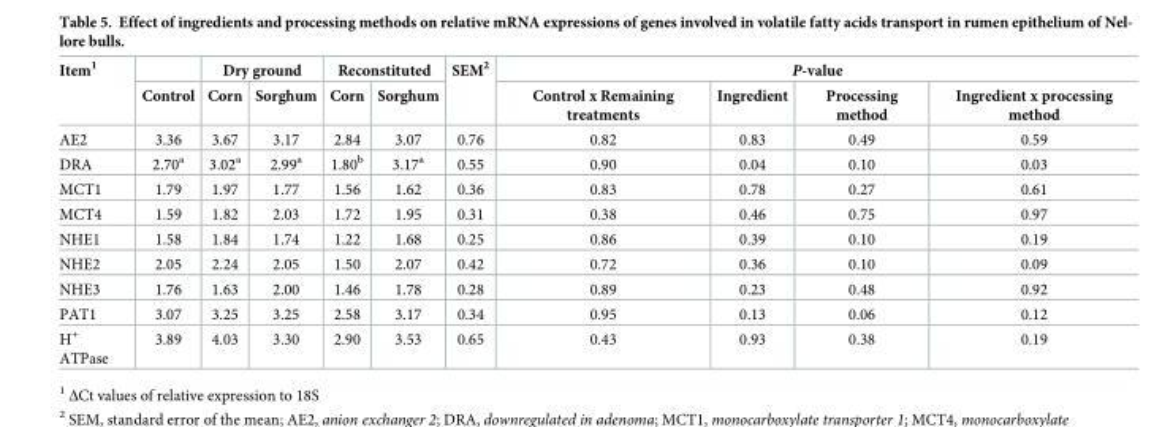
<table><thead><tr><td rowspan="2">Item<sup>1</sup></td><td rowspan="2">Control</td><td colspan="2">Dry ground</td><td colspan="2">Reconstituted</td><td rowspan="2">SEM<sup>2</sup></td><td colspan="4">P-value</td></tr><tr><td>Corn</td><td>Sorghum</td><td>Corn</td><td>Sorghum</td><td>Control x Remaining treatments</td><td>Ingredient</td><td>Processing method</td><td>Ingredient x processing method</td></tr></thead><tbody><tr><td>AE2</td><td>3.36</td><td>3.67</td><td>3.17</td><td>2.84</td><td>3.07</td><td>0.76</td><td>0.82</td><td>0.83</td><td>0.49</td><td>0.59</td></tr><tr><td>DRA</td><td>2.70<sup>a</sup></td><td>3.02<sup>a</sup></td><td>2.99<sup>a</sup></td><td>1.80<sup>b</sup></td><td>3.17<sup>a</sup></td><td>0.55</td><td>0.90</td><td>0.04</td><td>0.10</td><td>0.03</td></tr><tr><td>MCT1</td><td>1.79</td><td>1.97</td><td>1.77</td><td>1.56</td><td>1.62</td><td>0.36</td><td>0.83</td><td>0.78</td><td>0.27</td><td>0.61</td></tr><tr><td>MCT4</td><td>1.59</td><td>1.82</td><td>2.03</td><td>1.72</td><td>1.95</td><td>0.31</td><td>0.38</td><td>0.46</td><td>0.75</td><td>0.97</td></tr><tr><td>NHE1</td><td>1.58</td><td>1.84</td><td>1.74</td><td>1.22</td><td>1.68</td><td>0.25</td><td>0.86</td><td>0.39</td><td>0.10</td><td>0.19</td></tr><tr><td>NHE2</td><td>2.05</td><td>2.24</td><td>2.05</td><td>1.50</td><td>2.07</td><td>0.42</td><td>0.72</td><td>0.36</td><td>0.10</td><td>0.09</td></tr><tr><td>NHE3</td><td>1.76</td><td>1.63</td><td>2.00</td><td>1.46</td><td>1.78</td><td>0.28</td><td>0.89</td><td>0.23</td><td>0.48</td><td>0.92</td></tr><tr><td>PAT1</td><td>3.07</td><td>3.25</td><td>3.25</td><td>2.58</td><td>3.17</td><td>0.34</td><td>0.95</td><td>0.13</td><td>0.06</td><td>0.12</td></tr><tr><td>H<sup>+</sup> ATPase</td><td>3.89</td><td>4.03</td><td>3.30</td><td>2.90</td><td>3.53</td><td>0.65</td><td>0.43</td><td>0.93</td><td>0.38</td><td>0.19</td></tr></tbody></table>